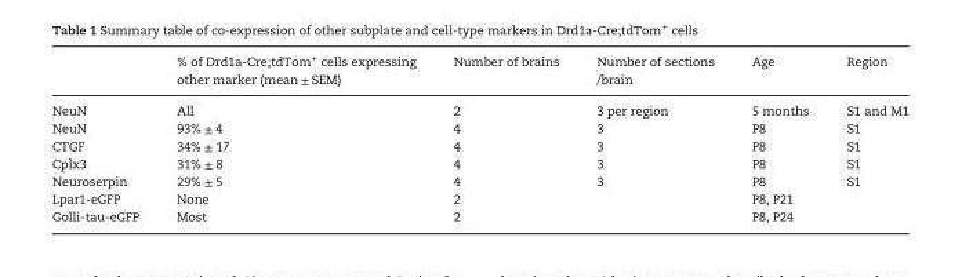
<table><thead><tr><td></td><td>% of Drd1a-Cre;tdTom<sup>+</sup> cells expressing other marker (mean ± SEM)</td><td>Number of brains</td><td>Number of sections /brain</td><td>Age</td><td>Region</td></tr></thead><tbody><tr><td>NeuN</td><td>All</td><td>2</td><td>3 per region</td><td>5 months</td><td>S1 and M1</td></tr><tr><td>NeuN</td><td>93% ± 4</td><td>4</td><td>3</td><td>P8</td><td>S1</td></tr><tr><td>CTGF</td><td>34% ± 17</td><td>4</td><td>3</td><td>P8</td><td>S1</td></tr><tr><td>Cplx3</td><td>31% ± 8</td><td>4</td><td>3</td><td>P8</td><td>S1</td></tr><tr><td>Neuroserpin</td><td>29% ± 5</td><td>4</td><td>3</td><td>P8</td><td>S1</td></tr><tr><td>Lpar1-eGFP</td><td>None</td><td>2</td><td></td><td>P8, P21</td><td></td></tr><tr><td>Golli-tau-eGFP</td><td>Most</td><td>2</td><td></td><td>P8, P24</td><td></td></tr></tbody></table>